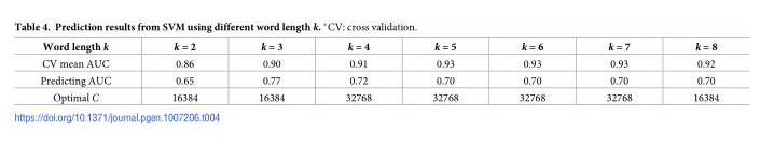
<table><thead><tr><td>Word length k</td><td>k = 2</td><td>k = 3</td><td>k = 4</td><td>k = 5</td><td>k = 6</td><td>k = 7</td><td>k = 8</td></tr></thead><tbody><tr><td>CV mean AUC</td><td>0.86</td><td>0.90</td><td>0.91</td><td>0.93</td><td>0.93</td><td>0.93</td><td>0.92</td></tr><tr><td>Predicting AUC</td><td>0.65</td><td>0.77</td><td>0.72</td><td>0.70</td><td>0.70</td><td>0.70</td><td>0.70</td></tr><tr><td>Optimal C</td><td>16384</td><td>16384</td><td>32768</td><td>32768</td><td>32768</td><td>32768</td><td>16384</td></tr></tbody></table>